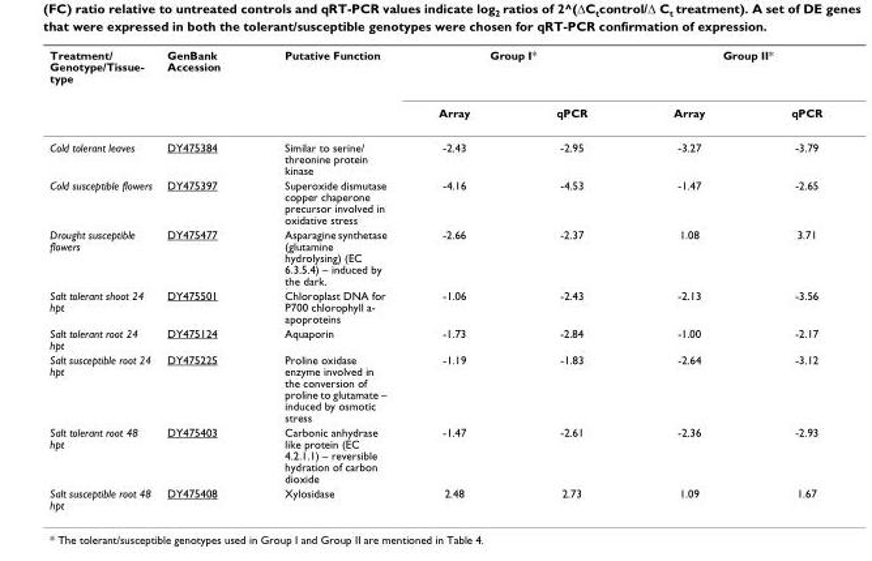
<table><thead><tr><td rowspan="2">Treatment/ Genotype/Tissue- type</td><td rowspan="2">GenBank Accession</td><td rowspan="2">Putative Function</td><td colspan="2">Group I*</td><td colspan="2">Group II*</td></tr><tr><td>Array</td><td>qPCR</td><td>Array</td><td>qPCR</td></tr></thead><tbody><tr><td>Cold tolerant leaves</td><td>DY475384</td><td>Similar to serine/ threonine protein kinase</td><td>-2.43</td><td>-2.95</td><td>-3.27</td><td>-3.79</td></tr><tr><td>Cold susceptible flowers</td><td>DY475397</td><td>Superoxide dismutase copper chaperone precursor involved in oxidative stress</td><td>-4.16</td><td>-4.53</td><td>-1.47</td><td>-2.65</td></tr><tr><td>Drought susceptible flowers</td><td>DY475477</td><td>Asparagine synthetase (glutamine hydrolysing) (EC 6.3.5.4) – induced by the dark.</td><td>-2.66</td><td>-2.37</td><td>1.08</td><td>3.71</td></tr><tr><td>Salt tolerant shoot 24 hpt</td><td>DY475501</td><td>Chloroplast DNA for P700 chlorophyll a- apoproteins</td><td>-1.06</td><td>-2.43</td><td>-2.13</td><td>-3.56</td></tr><tr><td>Salt tolerant root 24 hpt</td><td>DY475124</td><td>Aquaporin</td><td>-1.73</td><td>-2.84</td><td>-1.00</td><td>-2.17</td></tr><tr><td>Salt susceptible root 24 hpt</td><td>DY475225</td><td>Proline oxidase enzyme involved in the conversion of proline to glutamate – induced by osmotic stress</td><td>-1.19</td><td>-1.83</td><td>-2.64</td><td>-3.12</td></tr><tr><td>Salt tolerant root 48 hpt</td><td>DY475403</td><td>Carbonic anhydrase like protein (EC 4.2.1.1) – reversible hydration of carbon dioxide</td><td>-1.47</td><td>-2.61</td><td>-2.36</td><td>-2.93</td></tr><tr><td>Salt susceptible root 48 hpt</td><td>DY475408</td><td>Xylosidase</td><td>2.48</td><td>2.73</td><td>1.09</td><td>1.67</td></tr></tbody></table>